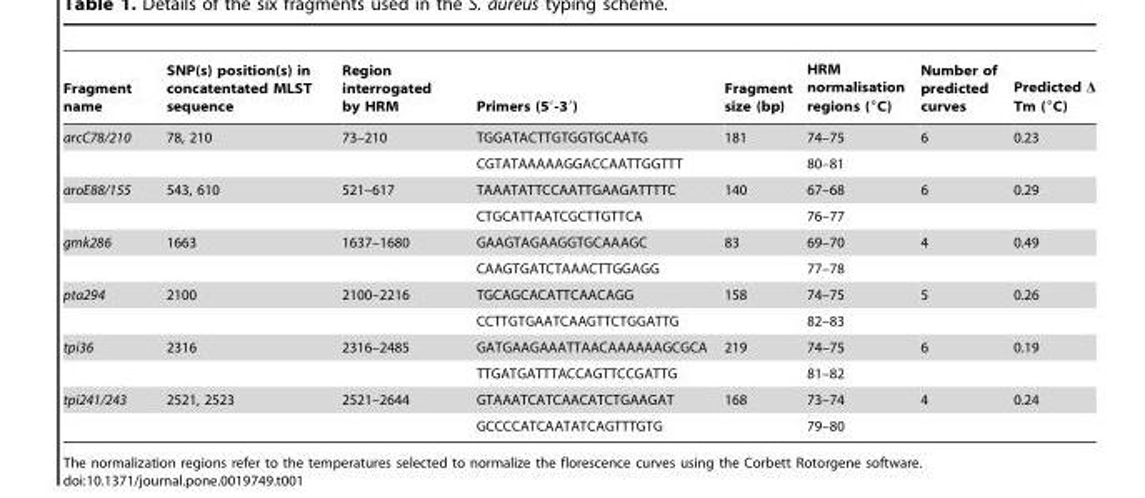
<table><thead><tr><td>Fragment name</td><td>SNP(s) position(s) in concatentated MLST sequence</td><td>Region interrogated by HRM</td><td>Primers (5′-3′)</td><td>Fragment size (bp)</td><td>HRM normalisation regions (°C)</td><td>Number of predicted curves</td><td>Predicted Tm (6C)</td></tr></thead><tbody><tr><td rowspan="2">arcC78/210</td><td>78, 210</td><td>73–210</td><td>TGGATACTTGTGGTGCAATG</td><td>181</td><td>74–75</td><td>6</td><td>0.23</td></tr><tr><td></td><td></td><td>CGTATAAAAAGGACCAATTGGTTT</td><td></td><td>80–81</td><td></td><td></td></tr><tr><td rowspan="2">aroE88/155</td><td>543, 610</td><td>521–617</td><td>TAAATATTCCAATTGAAGATTTTC</td><td>140</td><td>67–68</td><td>6</td><td>0.29</td></tr><tr><td></td><td></td><td>CTGCATTAATCGCTTGTTCA</td><td></td><td>76–77</td><td></td><td></td></tr><tr><td rowspan="2">gmk286</td><td>1663</td><td>1637–1680</td><td>GAAGTAGAAGGTGCAAAGC</td><td>83</td><td>69–70</td><td>4</td><td>0.49</td></tr><tr><td></td><td></td><td>CAAGTGATCTAAACTTGGAGG</td><td></td><td>77–78</td><td></td><td></td></tr><tr><td rowspan="2">pta294</td><td>2100</td><td>2100–2216</td><td>TGCAGCACATTCAACAGG</td><td>158</td><td>74–75</td><td>5</td><td>0.26</td></tr><tr><td></td><td></td><td>CCTTGTGAATCAAGTTCTGGATTG</td><td></td><td>82–83</td><td></td><td></td></tr><tr><td rowspan="2">tpi36</td><td>2316</td><td>2316–2485</td><td>GATGAAGAAATTAACAAAAAAGCGCA</td><td>219</td><td>74–75</td><td>6</td><td>0.19</td></tr><tr><td></td><td></td><td>TTGATGATTTACCAGTTCCGATTG</td><td></td><td>81–82</td><td></td><td></td></tr><tr><td rowspan="2">tpi241/243</td><td>2521, 2523</td><td>2521–2644</td><td>GTAAATCATCAACATCTGAAGAT</td><td>168</td><td>73–74</td><td>4</td><td>0.24</td></tr><tr><td></td><td></td><td>GCCCCATCAATATCAGTTTGTG</td><td></td><td>79–80</td><td></td><td></td></tr></tbody></table>